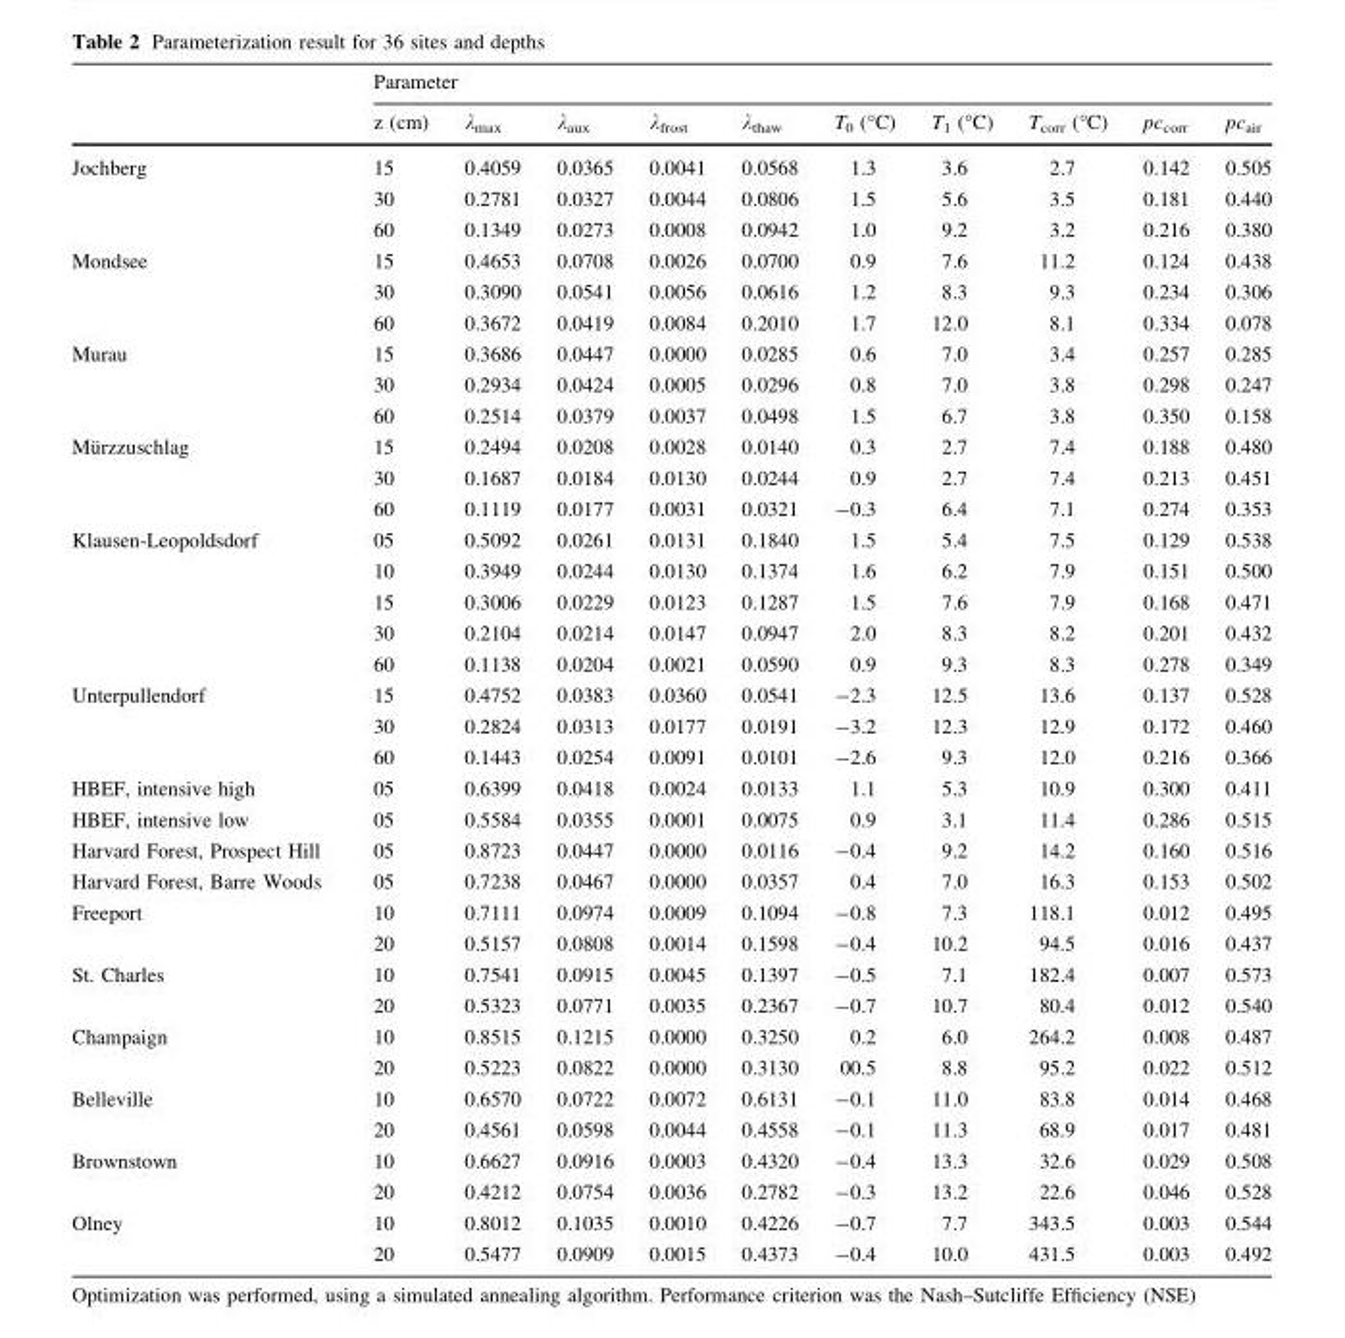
<table><thead><tr><td rowspan="2"></td><td colspan="10">Parameter</td></tr><tr><td>z (cm)</td><td>λ<sub>max</sub></td><td>λ<sub>aux</sub></td><td>λ<sub>frost</sub></td><td>λ<sub>thaw</sub></td><td>T<sub>0</sub> (°C)</td><td>T<sub>1</sub> (°C)</td><td>T<sub>corr</sub> (°C)</td><td>pc<sub>corr</sub></td><td>pc<sub>air</sub></td></tr></thead><tbody><tr><td rowspan="3">Jochberg</td><td>15</td><td>0.4059</td><td>0.0365</td><td>0.0041</td><td>0.0568</td><td>1.3</td><td>3.6</td><td>2.7</td><td>0.142</td><td>0.505</td></tr><tr><td>30</td><td>0.2781</td><td>0.0327</td><td>0.0044</td><td>0.0806</td><td>1.5</td><td>5.6</td><td>3.5</td><td>0.181</td><td>0.440</td></tr><tr><td>60</td><td>0.1349</td><td>0.0273</td><td>0.0008</td><td>0.0942</td><td>1.0</td><td>9.2</td><td>3.2</td><td>0.216</td><td>0.380</td></tr><tr><td rowspan="3">Mondsee</td><td>15</td><td>0.4653</td><td>0.0708</td><td>0.0026</td><td>0.0700</td><td>0.9</td><td>7.6</td><td>11.2</td><td>0.124</td><td>0.438</td></tr><tr><td>30</td><td>0.3090</td><td>0.0541</td><td>0.0056</td><td>0.0616</td><td>1.2</td><td>8.3</td><td>9.3</td><td>0.234</td><td>0.306</td></tr><tr><td>60</td><td>0.3672</td><td>0.0419</td><td>0.0084</td><td>0.2010</td><td>1.7</td><td>12.0</td><td>8.1</td><td>0.334</td><td>0.078</td></tr><tr><td rowspan="3">Murau</td><td>15</td><td>0.3686</td><td>0.0447</td><td>0.0000</td><td>0.0285</td><td>0.6</td><td>7.0</td><td>3.4</td><td>0.257</td><td>0.285</td></tr><tr><td>30</td><td>0.2934</td><td>0.0424</td><td>0.0005</td><td>0.0296</td><td>0.8</td><td>7.0</td><td>3.8</td><td>0.298</td><td>0.247</td></tr><tr><td>60</td><td>0.2514</td><td>0.0379</td><td>0.0037</td><td>0.0498</td><td>1.5</td><td>6.7</td><td>3.8</td><td>0.350</td><td>0.158</td></tr><tr><td rowspan="3">Mu¨rzzuschlag</td><td>15</td><td>0.2494</td><td>0.0208</td><td>0.0028</td><td>0.0140</td><td>0.3</td><td>2.7</td><td>7.4</td><td>0.188</td><td>0.480</td></tr><tr><td>30</td><td>0.1687</td><td>0.0184</td><td>0.0130</td><td>0.0244</td><td>0.9</td><td>2.7</td><td>7.4</td><td>0.213</td><td>0.451</td></tr><tr><td>60</td><td>0.1119</td><td>0.0177</td><td>0.0031</td><td>0.0321</td><td>-0.3</td><td>6.4</td><td>7.1</td><td>0.274</td><td>0.353</td></tr><tr><td rowspan="5">Klausen-Leopoldsdorf</td><td>05</td><td>0.5092</td><td>0.0261</td><td>0.0131</td><td>0.1840</td><td>1.5</td><td>5.4</td><td>7.5</td><td>0.129</td><td>0.538</td></tr><tr><td>10</td><td>0.3949</td><td>0.0244</td><td>0.0130</td><td>0.1374</td><td>1.6</td><td>6.2</td><td>7.9</td><td>0.151</td><td>0.500</td></tr><tr><td>15</td><td>0.3006</td><td>0.0229</td><td>0.0123</td><td>0.1287</td><td>1.5</td><td>7.6</td><td>7.9</td><td>0.168</td><td>0.471</td></tr><tr><td>30</td><td>0.2104</td><td>0.0214</td><td>0.0147</td><td>0.0947</td><td>2.0</td><td>8.3</td><td>8.2</td><td>0.201</td><td>0.432</td></tr><tr><td>60</td><td>0.1138</td><td>0.0204</td><td>0.0021</td><td>0.0590</td><td>0.9</td><td>9.3</td><td>8.3</td><td>0.278</td><td>0.349</td></tr><tr><td rowspan="3">Unterpullendorf</td><td>15</td><td>0.4752</td><td>0.0383</td><td>0.0360</td><td>0.0541</td><td>-2.3</td><td>12.5</td><td>13.6</td><td>0.137</td><td>0.528</td></tr><tr><td>30</td><td>0.2824</td><td>0.0313</td><td>0.0177</td><td>0.0191</td><td>-3.2</td><td>12.3</td><td>12.9</td><td>0.172</td><td>0.460</td></tr><tr><td>60</td><td>0.1443</td><td>0.0254</td><td>0.0091</td><td>0.0101</td><td>-2.6</td><td>9.3</td><td>12.0</td><td>0.216</td><td>0.366</td></tr><tr><td>HBEF, intensive high</td><td>05</td><td>0.6399</td><td>0.0418</td><td>0.0024</td><td>0.0133</td><td>1.1</td><td>5.3</td><td>10.9</td><td>0.300</td><td>0.411</td></tr><tr><td>HBEF, intensive low</td><td>05</td><td>0.5584</td><td>0.0355</td><td>0.0001</td><td>0.0075</td><td>0.9</td><td>3.1</td><td>11.4</td><td>0.286</td><td>0.515</td></tr><tr><td>Harvard Forest, Prospect Hill</td><td>05</td><td>0.8723</td><td>0.0447</td><td>0.0000</td><td>0.0116</td><td>-0.4</td><td>9.2</td><td>14.2</td><td>0.160</td><td>0.516</td></tr><tr><td>Harvard Forest, Barre Woods</td><td>05</td><td>0.7238</td><td>0.0467</td><td>0.0000</td><td>0.0357</td><td>0.4</td><td>7.0</td><td>16.3</td><td>0.153</td><td>0.502</td></tr><tr><td rowspan="2">Freeport</td><td>10</td><td>0.7111</td><td>0.0974</td><td>0.0009</td><td>0.1094</td><td>-0.8</td><td>7.3</td><td>118.1</td><td>0.012</td><td>0.495</td></tr><tr><td>20</td><td>0.5157</td><td>0.0808</td><td>0.0014</td><td>0.1598</td><td>-0.4</td><td>10.2</td><td>94.5</td><td>0.016</td><td>0.437</td></tr><tr><td rowspan="2">St. Charles</td><td>10</td><td>0.7541</td><td>0.0915</td><td>0.0045</td><td>0.1397</td><td>-0.5</td><td>7.1</td><td>182.4</td><td>0.007</td><td>0.573</td></tr><tr><td>20</td><td>0.5323</td><td>0.0771</td><td>0.0035</td><td>0.2367</td><td>-0.7</td><td>10.7</td><td>80.4</td><td>0.012</td><td>0.540</td></tr><tr><td rowspan="2">Champaign</td><td>10</td><td>0.8515</td><td>0.1215</td><td>0.0000</td><td>0.3250</td><td>0.2</td><td>6.0</td><td>264.2</td><td>0.008</td><td>0.487</td></tr><tr><td>20</td><td>0.5223</td><td>0.0822</td><td>0.0000</td><td>0.3130</td><td>00.5</td><td>8.8</td><td>95.2</td><td>0.022</td><td>0.512</td></tr><tr><td rowspan="2">Belleville</td><td>10</td><td>0.6570</td><td>0.0722</td><td>0.0072</td><td>0.6131</td><td>-0.1</td><td>11.0</td><td>83.8</td><td>0.014</td><td>0.468</td></tr><tr><td>20</td><td>0.4561</td><td>0.0598</td><td>0.0044</td><td>0.4558</td><td>-0.1</td><td>11.3</td><td>68.9</td><td>0.017</td><td>0.481</td></tr><tr><td rowspan="2">Brownstown</td><td>10</td><td>0.6627</td><td>0.0916</td><td>0.0003</td><td>0.4320</td><td>-0.4</td><td>13.3</td><td>32.6</td><td>0.029</td><td>0.508</td></tr><tr><td>20</td><td>0.4212</td><td>0.0754</td><td>0.0036</td><td>0.2782</td><td>-0.3</td><td>13.2</td><td>22.6</td><td>0.046</td><td>0.528</td></tr><tr><td rowspan="2">Olney</td><td>10</td><td>0.8012</td><td>0.1035</td><td>0.0010</td><td>0.4226</td><td>-0.7</td><td>7.7</td><td>343.5</td><td>0.003</td><td>0.544</td></tr><tr><td>20</td><td>0.5477</td><td>0.0909</td><td>0.0015</td><td>0.4373</td><td>-0.4</td><td>10.0</td><td>431.5</td><td>0.003</td><td>0.492</td></tr></tbody></table>